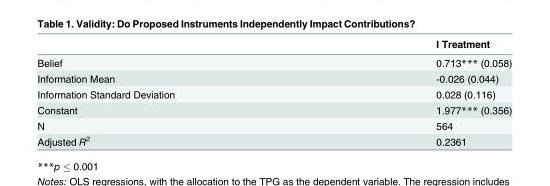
<table><thead><tr><td></td><td>I Treatment</td></tr></thead><tbody><tr><td>Belief</td><td>0.713*** (0.058)</td></tr><tr><td>Information Mean</td><td>-0.026 (0.044)</td></tr><tr><td>Information Standard Deviation</td><td>0.028 (0.116)</td></tr><tr><td>Constant</td><td>1.977*** (0.356)</td></tr><tr><td>N</td><td>564</td></tr><tr><td>Adjusted R<sup>2</sup></td><td>0.2361</td></tr></tbody></table>